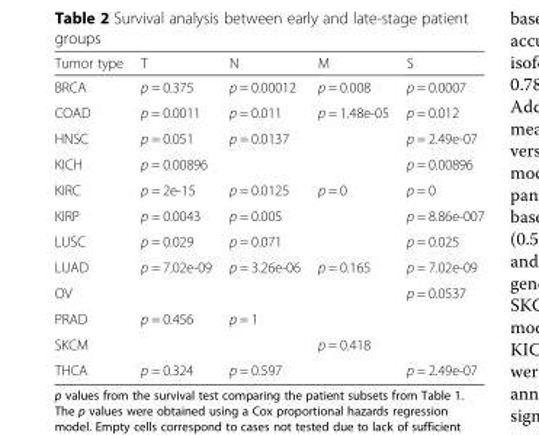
<table><thead><tr><td>Tumor type</td><td>T</td><td>N</td><td>M</td><td>S</td></tr></thead><tbody><tr><td>BRCA</td><td>p = 0.375</td><td>p = 0.00012</td><td>p = 0.008</td><td>p = 0.0007</td></tr><tr><td>COAD</td><td>p = 0.0011</td><td>p = 0.011</td><td>p = 1.48e-05</td><td>p = 0.012</td></tr><tr><td>HNSC</td><td>p = 0.051</td><td>p = 0.0137</td><td></td><td>p = 2.49e-07</td></tr><tr><td>KICH</td><td>p = 0.00896</td><td></td><td></td><td>p = 0.00896</td></tr><tr><td>KIRC</td><td>p = 2e-15</td><td>p = 0.0125</td><td>p = 0</td><td>p = 0</td></tr><tr><td>KIRP</td><td>p = 0.0043</td><td>p = 0.005</td><td></td><td>p = 8.86e-007</td></tr><tr><td>LUSC</td><td>p = 0.029</td><td>p = 0.071</td><td></td><td>p = 0.025</td></tr><tr><td>LUAD</td><td>p = 7.02e-09</td><td>p = 3.26e-06</td><td>p = 0.165</td><td>p = 7.02e-09</td></tr><tr><td>OV</td><td></td><td></td><td></td><td>p = 0.0537</td></tr><tr><td>PRAD</td><td>p = 0.456</td><td>p = 1</td><td></td><td></td></tr><tr><td>SKCM</td><td></td><td></td><td>p = 0.418</td><td></td></tr><tr><td>THCA</td><td>p = 0.324</td><td>p = 0.597</td><td></td><td>p = 2.49e-07</td></tr></tbody></table>